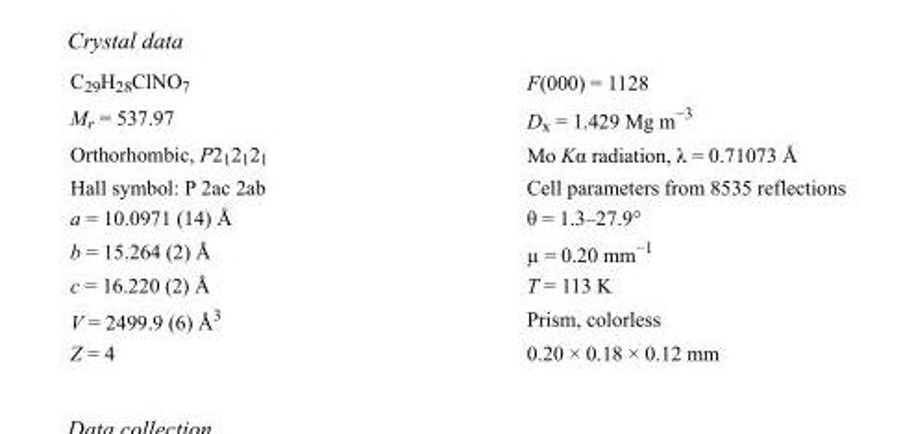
<table><tbody><tr><td>C<sub>29</sub>H<sub>28</sub>ClNO<sub>7</sub></td><td>F(000) = 1128</td></tr><tr><td>M<sub>r</sub> = 537.97</td><td>D<sub>x</sub> = 1.429 Mg m<sup>−3</sup></td></tr><tr><td>Orthorhombic, P2<sub>1</sub>2<sub>1</sub>2<sub>1</sub></td><td>Mo Kα radiation, λ = 0.71073 Å</td></tr><tr><td>Hall symbol: P 2ac 2ab</td><td>Cell parameters from 8535 reflections</td></tr><tr><td>a = 10.0971 (14) Å</td><td>θ = 1.3–27.9°</td></tr><tr><td>b = 15.264 (2) Å</td><td>µ = 0.20 mm<sup>−1</sup></td></tr><tr><td>c = 16.220 (2) Å</td><td>T = 113 K</td></tr><tr><td>V = 2499.9 (6) Å<sup>3</sup></td><td>Prism, colorless</td></tr><tr><td>Z = 4</td><td>0.20 × 0.18 × 0.12 mm</td></tr></tbody></table>